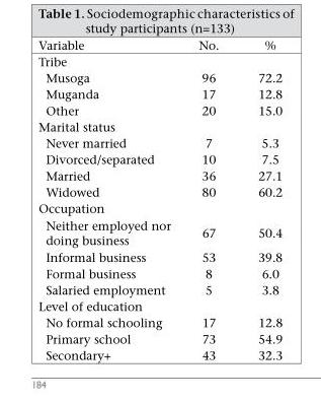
<table><thead><tr><td>Variable</td><td>No.</td><td>%</td></tr></thead><tbody><tr><td colspan="3">Tribe</td></tr><tr><td>Musoga</td><td>96</td><td>72.2</td></tr><tr><td>Muganda</td><td>17</td><td>12.8</td></tr><tr><td>Other</td><td>20</td><td>15.0</td></tr><tr><td colspan="3">Marital status</td></tr><tr><td>Never married</td><td>7</td><td>5.3</td></tr><tr><td>Divorced/separated</td><td>10</td><td>7.5</td></tr><tr><td>Married</td><td>36</td><td>27.1</td></tr><tr><td>Widowed</td><td>80</td><td>60.2</td></tr><tr><td colspan="3">Occupation</td></tr><tr><td>Neither employed nor doing business</td><td>67</td><td>50.4</td></tr><tr><td>Informal business</td><td>53</td><td>39.8</td></tr><tr><td>Formal business</td><td>8</td><td>6.0</td></tr><tr><td>Salaried employment</td><td>5</td><td>3.8</td></tr><tr><td colspan="3">Level of education</td></tr><tr><td>No formal schooling</td><td>17</td><td>12.8</td></tr><tr><td>Primary school</td><td>73</td><td>54.9</td></tr><tr><td>Secondary+</td><td>43</td><td>32.3</td></tr></tbody></table>